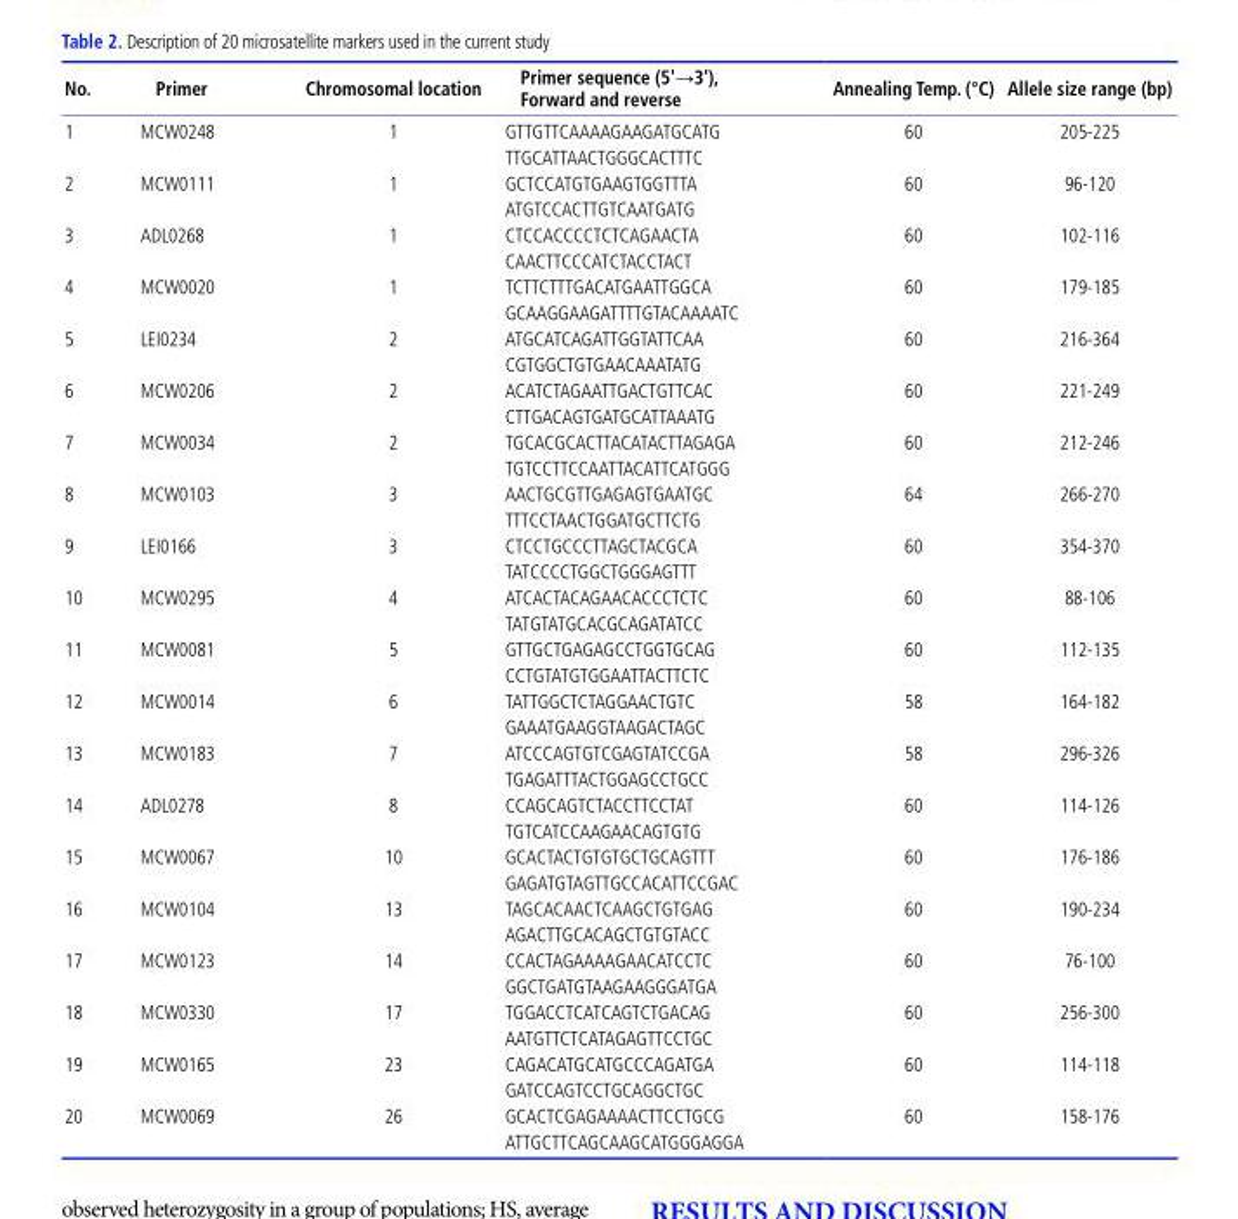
<table><thead><tr><td>No.</td><td>Primer</td><td>Chromosomal location</td><td>Primer sequence (5&#x27;→3&#x27;), Forward and reverse</td><td>Annealing Temp. (°C)</td><td>Allele size range (bp)</td></tr></thead><tbody><tr><td>1</td><td>MCW0248</td><td>1</td><td>GTTGTTCAAAAGAAGATGCATG TTGCATTAACTGGGCACTTTC</td><td>60</td><td>205-225</td></tr><tr><td>2</td><td>MCW0111</td><td>1</td><td>GCTCCATGTGAAGTGGTTTA ATGTCCACTTGTCAATGATG</td><td>60</td><td>96-120</td></tr><tr><td>3</td><td>ADL0268</td><td>1</td><td>CTCCACCCCTCTCAGAACTA CAACTTCCCATCTACCTACT</td><td>60</td><td>102-116</td></tr><tr><td>4</td><td>MCW0020</td><td>1</td><td>TCTTCTTTGACATGAATTGGCA GCAAGGAAGATTTTGTACAAAATC</td><td>60</td><td>179-185</td></tr><tr><td>5</td><td>LEI0234</td><td>2</td><td>ATGCATCAGATTGGTATTCAA CGTGGCTGTGAACAAATATG</td><td>60</td><td>216-364</td></tr><tr><td>6</td><td>MCW0206</td><td>2</td><td>ACATCTAGAATTGACTGTTCAC CTTGACAGTGATGCATTAAATG</td><td>60</td><td>221-249</td></tr><tr><td>7</td><td>MCW0034</td><td>2</td><td>TGCACGCACTTACATACTTAGAGA TGTCCTTCCAATTACATTCATGGG</td><td>60</td><td>212-246</td></tr><tr><td>8</td><td>MCW0103</td><td>3</td><td>AACTGCGTTGAGAGTGAATGC TTTCCTAACTGGATGCTTCTG</td><td>64</td><td>266-270</td></tr><tr><td>9</td><td>LEI0166</td><td>3</td><td>CTCCTGCCCTTAGCTACGCA TATCCCCTGGCTGGGAGTTT</td><td>60</td><td>354-370</td></tr><tr><td>10</td><td>MCW0295</td><td>4</td><td>ATCACTACAGAACACCCTCTC TATGTATGCACGCAGATATCC</td><td>60</td><td>88-106</td></tr><tr><td>11</td><td>MCW0081</td><td>5</td><td>GTTGCTGAGAGCCTGGTGCAG CCTGTATGTGGAATTACTTCTC</td><td>60</td><td>112-135</td></tr><tr><td>12</td><td>MCW0014</td><td>6</td><td>TATTGGCTCTAGGAACTGTC GAAATGAAGGTAAGACTAGC</td><td>58</td><td>164-182</td></tr><tr><td>13</td><td>MCW0183</td><td>7</td><td>ATCCCAGTGTCGAGTATCCGA TGAGATTTACTGGAGCCTGCC</td><td>58</td><td>296-326</td></tr><tr><td>14</td><td>ADL0278</td><td>8</td><td>CCAGCAGTCTACCTTCCTAT TGTCATCCAAGAACAGTGTG</td><td>60</td><td>114-126</td></tr><tr><td>15</td><td>MCW0067</td><td>10</td><td>GCACTACTGTGTGCTGCAGTTT GAGATGTAGTTGCCACATTCCGAC</td><td>60</td><td>176-186</td></tr><tr><td>16</td><td>MCW0104</td><td>13</td><td>TAGCACAACTCAAGCTGTGAG AGACTTGCACAGCTGTGTACC</td><td>60</td><td>190-234</td></tr><tr><td>17</td><td>MCW0123</td><td>14</td><td>CCACTAGAAAAGAACATCCTC GGCTGATGTAAGAAGGGATGA</td><td>60</td><td>76-100</td></tr><tr><td>18</td><td>MCW0330</td><td>17</td><td>TGGACCTCATCAGTCTGACAG AATGTTCTCATAGAGTTCCTGC</td><td>60</td><td>256-300</td></tr><tr><td>19</td><td>MCW0165</td><td>23</td><td>CAGACATGCATGCCCAGATGA GATCCAGTCCTGCAGGCTGC</td><td>60</td><td>114-118</td></tr><tr><td>20</td><td>MCW0069</td><td>26</td><td>GCACTCGAGAAAACTTCCTGCG ATTGCTTCAGCAAGCATGGGAGGA</td><td>60</td><td>158-176</td></tr></tbody></table>